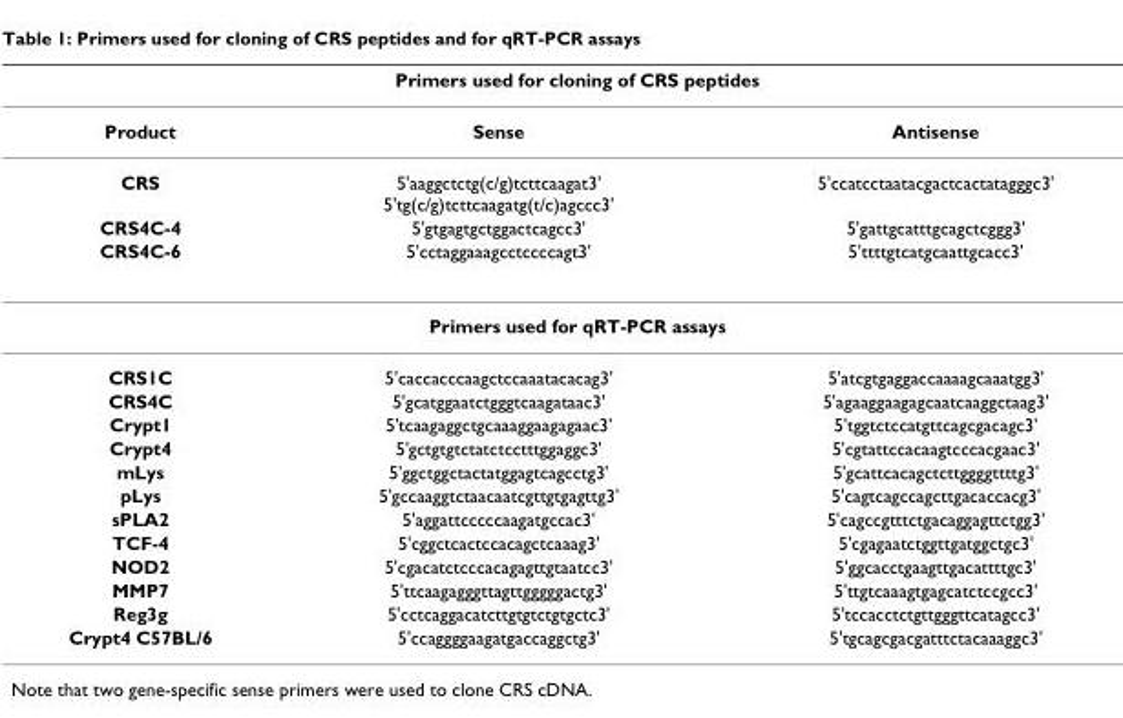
<table><thead><tr><td colspan="3">Primers used for cloning of CRS peptides</td></tr><tr><td>Product</td><td>Sense</td><td>Antisense</td></tr></thead><tbody><tr><td>CRS</td><td>5&#x27;aaggctctg(c/g)tcttcaagat3&#x27; 5&#x27;tg(c/g)tcttcaagatg(t/c)agccc3&#x27;</td><td>5&#x27;ccatcctaatacgactcactatagggc3&#x27;</td></tr><tr><td>CRS4C-4</td><td>5&#x27;gtgagtgctggactcagcc3&#x27;</td><td>5&#x27;gattgcatttgcagctcggg3&#x27;</td></tr><tr><td>CRS4C-6</td><td>5&#x27;cctaggaaagcctccccagt3&#x27;</td><td>5&#x27;ttttgtcatgcaattgcacc3&#x27;</td></tr><tr><td colspan="3">Primers used for qRT-PCR assays</td></tr><tr><td>CRS1C</td><td>5&#x27;caccacccaagctccaaatacacag3&#x27;</td><td>5&#x27;atcgtgaggaccaaaagcaaatgg3&#x27;</td></tr><tr><td>CRS4C</td><td>5&#x27;gcatggaatctgggtcaagataac3&#x27;</td><td>5&#x27;agaaggaagagcaatcaaggctaag3&#x27;</td></tr><tr><td>Crypt1</td><td>5&#x27;tcaagaggctgcaaaggaagagaac3&#x27;</td><td>5&#x27;tggtctccatgttcagcgacagc3&#x27;</td></tr><tr><td>Crypt4</td><td>5&#x27;gctgtgtctatctcctttggaggc3&#x27;</td><td>5&#x27;cgtattccacaagtcccacgaac3&#x27;</td></tr><tr><td>mLys</td><td>5&#x27;ggctggctactatggagtcagcctg3&#x27;</td><td>5&#x27;gcattcacagctcttggggttttg3&#x27;</td></tr><tr><td>pLys</td><td>5&#x27;gccaaggtctaacaatcgttgtgagttg3&#x27;</td><td>5&#x27;cagtcagccagcttgacaccacg3&#x27;</td></tr><tr><td>sPLA2</td><td>5&#x27;aggattcccccaagatgccac3&#x27;</td><td>5&#x27;cagccgtttctgacaggagttctgg3&#x27;</td></tr><tr><td>TCF-4</td><td>5&#x27;cggctcactccacagctcaaag3&#x27;</td><td>5&#x27;cgagaatctggttgatggctgc3&#x27;</td></tr><tr><td>NOD2</td><td>5&#x27;cgacatctcccacagagttgtaatcc3&#x27;</td><td>5&#x27;ggcacctgaagttgacattttgc3&#x27;</td></tr><tr><td>MMP7</td><td>5&#x27;ttcaagagggttagttgggggactg3&#x27;</td><td>5&#x27;ttgtcaaagtgagcatctccgcc3&#x27;</td></tr><tr><td>Reg3g</td><td>5&#x27;cctcaggacatcttgtgtctgtgctc3&#x27;</td><td>5&#x27;tccacctctgttgggttcatagcc3&#x27;</td></tr><tr><td>Crypt4 C57BL/6</td><td>5&#x27;ccaggggaagatgaccaggctg3&#x27;</td><td>5&#x27;tgcagcgacgatttctacaaaggc3&#x27;</td></tr></tbody></table>